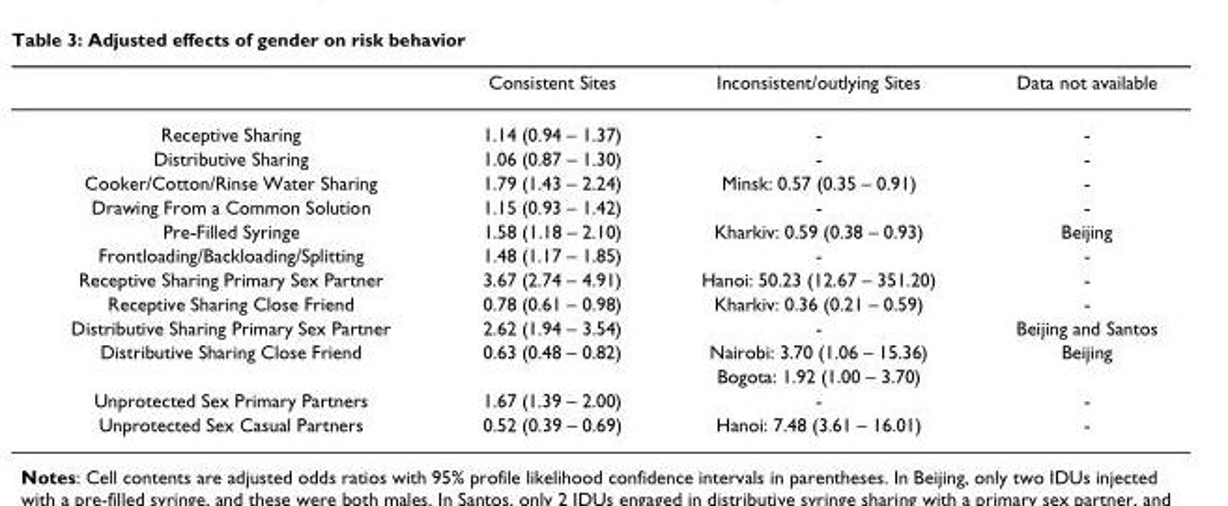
<table><thead><tr><td></td><td>Consistent Sites</td><td>Inconsistent/outlying Sites</td><td>Data not available</td></tr></thead><tbody><tr><td>Receptive Sharing</td><td>1.14 (0.94 – 1.37)</td><td>-</td><td>-</td></tr><tr><td>Distributive Sharing</td><td>1.06 (0.87 – 1.30)</td><td>-</td><td>-</td></tr><tr><td>Cooker/Cotton/Rinse Water Sharing</td><td>1.79 (1.43 – 2.24)</td><td>Minsk: 0.57 (0.35 – 0.91)</td><td>-</td></tr><tr><td>Drawing From a Common Solution</td><td>1.15 (0.93 – 1.42)</td><td>-</td><td>-</td></tr><tr><td>Pre-Filled Syringe</td><td>1.58 (1.18 – 2.10)</td><td>Kharkiv: 0.59 (0.38 – 0.93)</td><td>Beijing</td></tr><tr><td>Frontloading/Backloading/Splitting</td><td>1.48 (1.17 – 1.85)</td><td>-</td><td>-</td></tr><tr><td>Receptive Sharing Primary Sex Partner</td><td>3.67 (2.74 – 4.91)</td><td>Hanoi: 50.23 (12.67 – 351.20)</td><td>-</td></tr><tr><td>Receptive Sharing Close Friend</td><td>0.78 (0.61 – 0.98)</td><td>Kharkiv: 0.36 (0.21 – 0.59)</td><td>-</td></tr><tr><td>Distributive Sharing Primary Sex Partner</td><td>2.62 (1.94 – 3.54)</td><td>-</td><td>Beijing and Santos</td></tr><tr><td rowspan="2">Distributive Sharing Close Friend</td><td>0.63 (0.48 – 0.82)</td><td>Nairobi: 3.70 (1.06 – 15.36)</td><td>Beijing</td></tr><tr><td></td><td>Bogota: 1.92 (1.00 – 3.70)</td><td></td></tr><tr><td>Unprotected Sex Primary Partners</td><td>1.67 (1.39 – 2.00)</td><td>-</td><td>-</td></tr><tr><td>Unprotected Sex Casual Partners</td><td>0.52 (0.39 – 0.69)</td><td>Hanoi: 7.48 (3.61 – 16.01)</td><td>-</td></tr></tbody></table>